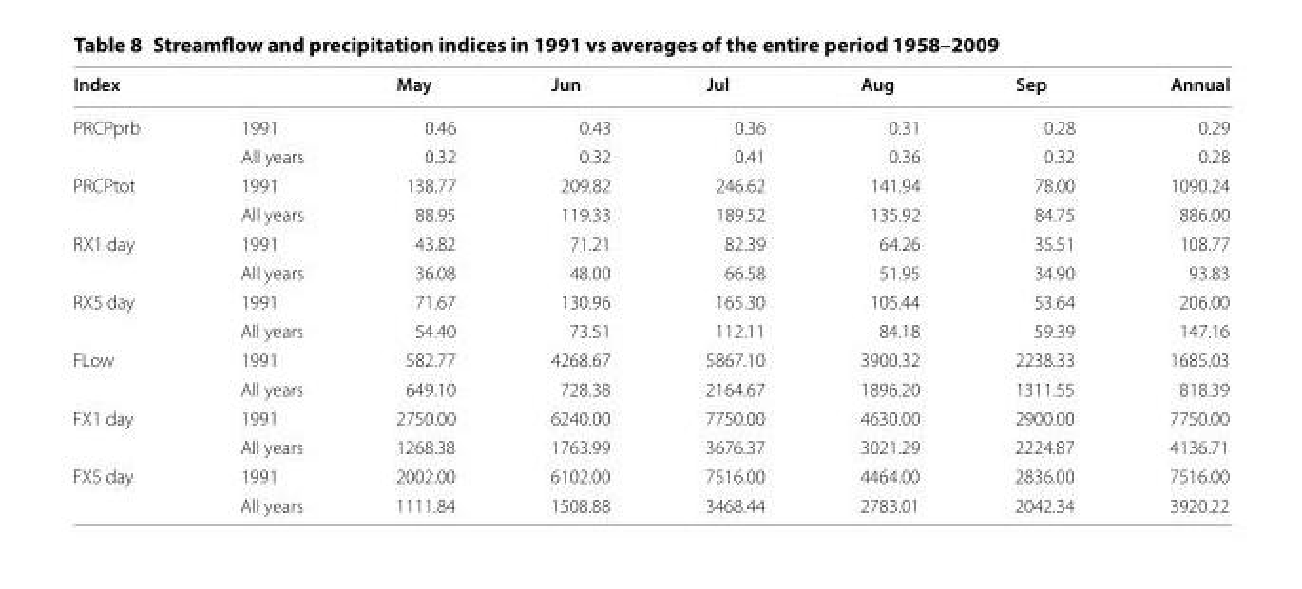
<table><thead><tr><td>Index</td><td></td><td>May</td><td>Jun</td><td>Jul</td><td>Aug</td><td>Sep</td><td>Annual</td></tr></thead><tbody><tr><td rowspan="2">PRCPprb</td><td>1991</td><td>0.46</td><td>0.43</td><td>0.36</td><td>0.31</td><td>0.28</td><td>0.29</td></tr><tr><td>All years</td><td>0.32</td><td>0.32</td><td>0.41</td><td>0.36</td><td>0.32</td><td>0.28</td></tr><tr><td rowspan="2">PRCPtot</td><td>1991</td><td>138.77</td><td>209.82</td><td>246.62</td><td>141.94</td><td>78.00</td><td>1090.24</td></tr><tr><td>All years</td><td>88.95</td><td>119.33</td><td>189.52</td><td>135.92</td><td>84.75</td><td>886.00</td></tr><tr><td rowspan="2">RX1 day</td><td>1991</td><td>43.82</td><td>71.21</td><td>82.39</td><td>64.26</td><td>35.51</td><td>108.77</td></tr><tr><td>All years</td><td>36.08</td><td>48.00</td><td>66.58</td><td>51.95</td><td>34.90</td><td>93.83</td></tr><tr><td rowspan="2">RX5 day</td><td>1991</td><td>71.67</td><td>130.96</td><td>165.30</td><td>105.44</td><td>53.64</td><td>206.00</td></tr><tr><td>All years</td><td>54.40</td><td>73.51</td><td>112.11</td><td>84.18</td><td>59.39</td><td>147.16</td></tr><tr><td rowspan="2">FLow</td><td>1991</td><td>582.77</td><td>4268.67</td><td>5867.10</td><td>3900.32</td><td>2238.33</td><td>1685.03</td></tr><tr><td>All years</td><td>649.10</td><td>728.38</td><td>2164.67</td><td>1896.20</td><td>1311.55</td><td>818.39</td></tr><tr><td rowspan="2">FX1 day</td><td>1991</td><td>2750.00</td><td>6240.00</td><td>7750.00</td><td>4630.00</td><td>2900.00</td><td>7750.00</td></tr><tr><td>All years</td><td>1268.38</td><td>1763.99</td><td>3676.37</td><td>3021.29</td><td>2224.87</td><td>4136.71</td></tr><tr><td rowspan="2">FX5 day</td><td>1991</td><td>2002.00</td><td>6102.00</td><td>7516.00</td><td>4464.00</td><td>2836.00</td><td>7516.00</td></tr><tr><td>All years</td><td>1111.84</td><td>1508.88</td><td>3468.44</td><td>2783.01</td><td>2042.34</td><td>3920.22</td></tr></tbody></table>